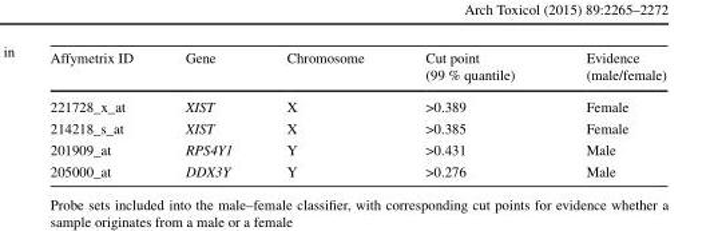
<table><thead><tr><td>Affymetrix ID</td><td>Gene</td><td>Chromosome</td><td>Cut point (99 % quantile)</td><td>Evidence (male/female)</td></tr></thead><tbody><tr><td>221728_x_at</td><td>XIST</td><td>X</td><td>&gt;0.389</td><td>Female</td></tr><tr><td>214218_s_at</td><td>XIST</td><td>X</td><td>&gt;0.385</td><td>Female</td></tr><tr><td>201909_at</td><td>RPS4Y1</td><td>Y</td><td>&gt;0.431</td><td>Male</td></tr><tr><td>205000_at</td><td>DDX3Y</td><td>Y</td><td>&gt;0.276</td><td>Male</td></tr></tbody></table>